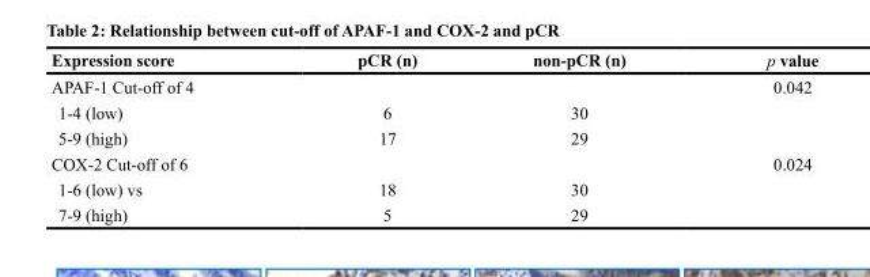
<table><thead><tr><td>Expression score</td><td>pCR (n)</td><td>non-pCR (n)</td><td>p value</td></tr></thead><tbody><tr><td>APAF-1 Cut-off of 4</td><td></td><td></td><td>0.042</td></tr><tr><td>1-4 (low)</td><td>6</td><td>30</td><td></td></tr><tr><td>5-9 (high)</td><td>17</td><td>29</td><td></td></tr><tr><td>COX-2 Cut-off of 6</td><td></td><td></td><td>0.024</td></tr><tr><td>1-6 (low) vs</td><td>18</td><td>30</td><td></td></tr><tr><td>7-9 (high)</td><td>5</td><td>29</td><td></td></tr></tbody></table>